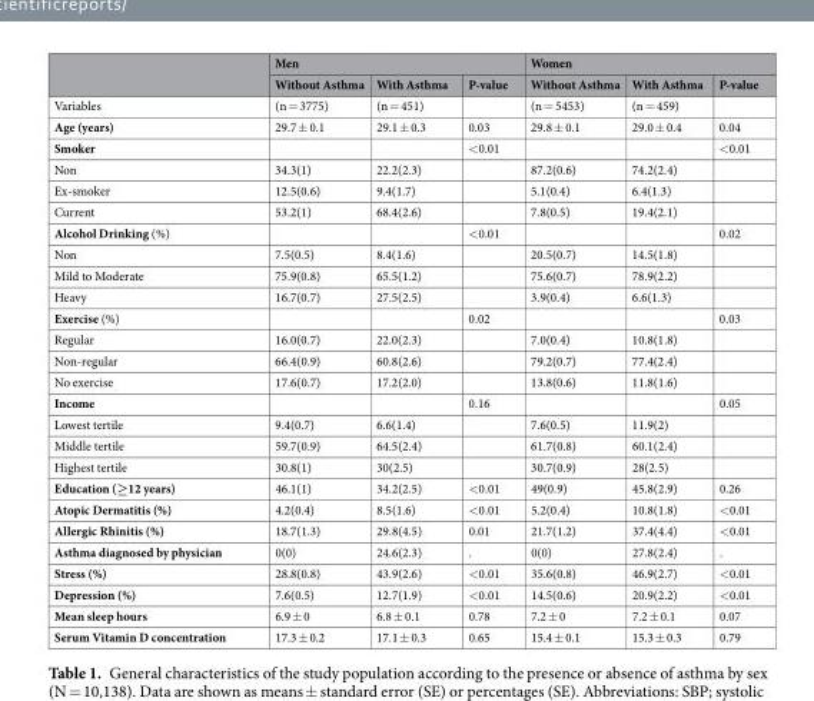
<table><thead><tr><td rowspan="2"></td><td colspan="3">Men</td><td colspan="3">Women</td></tr><tr><td>Without Asthma</td><td>With Asthma</td><td>P-value</td><td>Without Asthma</td><td>With Asthma</td><td>P-value</td></tr></thead><tbody><tr><td>Variables</td><td>(n = 3775)</td><td>(n = 451)</td><td></td><td>(n = 5453)</td><td>(n = 459)</td><td></td></tr><tr><td>Age (years)</td><td>29.7 ± 0.1</td><td>29.1 ± 0.3</td><td>0.03</td><td>29.8 ± 0.1</td><td>29.0 ± 0.4</td><td>0.04</td></tr><tr><td>Smoker</td><td></td><td></td><td>&lt;0.01</td><td></td><td></td><td>&lt;0.01</td></tr><tr><td>Non</td><td>34.3(1)</td><td>22.2(2.3)</td><td></td><td>87.2(0.6)</td><td>74.2(2.4)</td><td></td></tr><tr><td>Ex-smoker</td><td>12.5(0.6)</td><td>9.4(1.7)</td><td></td><td>5.1(0.4)</td><td>6.4(1.3)</td><td></td></tr><tr><td>Current</td><td>53.2(1)</td><td>68.4(2.6)</td><td></td><td>7.8(0.5)</td><td>19.4(2.1)</td><td></td></tr><tr><td>Alcohol Drinking (%)</td><td></td><td></td><td>&lt;0.01</td><td></td><td></td><td>0.02</td></tr><tr><td>Non</td><td>7.5(0.5)</td><td>8.4(1.6)</td><td></td><td>20.5(0.7)</td><td>14.5(1.8)</td><td></td></tr><tr><td>Mild to Moderate</td><td>75.9(0.8)</td><td>65.5(1.2)</td><td></td><td>75.6(0.7)</td><td>78.9(2.2)</td><td></td></tr><tr><td>Heavy</td><td>16.7(0.7)</td><td>27.5(2.5)</td><td></td><td>3.9(0.4)</td><td>6.6(1.3)</td><td></td></tr><tr><td>Exercise (%)</td><td></td><td></td><td>0.02</td><td></td><td></td><td>0.03</td></tr><tr><td>Regular</td><td>16.0(0.7)</td><td>22.0(2.3)</td><td></td><td>7.0(0.4)</td><td>10.8(1.8)</td><td></td></tr><tr><td>Non-regular</td><td>66.4(0.9)</td><td>60.8(2.6)</td><td></td><td>79.2(0.7)</td><td>77.4(2.4)</td><td></td></tr><tr><td>No exercise</td><td>17.6(0.7)</td><td>17.2(2.0)</td><td></td><td>13.8(0.6)</td><td>11.8(1.6)</td><td></td></tr><tr><td>Income</td><td></td><td></td><td>0.16</td><td></td><td></td><td>0.05</td></tr><tr><td>Lowest tertile</td><td>9.4(0.7)</td><td>6.6(1.4)</td><td></td><td>7.6(0.5)</td><td>11.9(2)</td><td></td></tr><tr><td>Middle tertile</td><td>59.7(0.9)</td><td>64.5(2.4)</td><td></td><td>61.7(0.8)</td><td>60.1(2.4)</td><td></td></tr><tr><td>Highest tertile</td><td>30.8(1)</td><td>30(2.5)</td><td></td><td>30.7(0.9)</td><td>28(2.5)</td><td></td></tr><tr><td>Education (≥12 years)</td><td>46.1(1)</td><td>34.2(2.5)</td><td>&lt;0.01</td><td>49(0.9)</td><td>45.8(2.9)</td><td>0.26</td></tr><tr><td>Atopic Dermatitis (%)</td><td>4.2(0.4)</td><td>8.5(1.6)</td><td>&lt;0.01</td><td>5.2(0.4)</td><td>10.8(1.8)</td><td>&lt;0.01</td></tr><tr><td>Allergic Rhinitis (%)</td><td>18.7(1.3)</td><td>29.8(4.5)</td><td>0.01</td><td>21.7(1.2)</td><td>37.4(4.4)</td><td>&lt;0.01</td></tr><tr><td>Asthma diagnosed by physician</td><td>0(0)</td><td>24.6(2.3)</td><td>.</td><td>0(0)</td><td>27.8(2.4)</td><td>.</td></tr><tr><td>Stress (%)</td><td>28.8(0.8)</td><td>43.9(2.6)</td><td>&lt;0.01</td><td>35.6(0.8)</td><td>46.9(2.7)</td><td>&lt;0.01</td></tr><tr><td>Depression (%)</td><td>7.6(0.5)</td><td>12.7(1.9)</td><td>&lt;0.01</td><td>14.5(0.6)</td><td>20.9(2.2)</td><td>&lt;0.01</td></tr><tr><td>Mean sleep hours</td><td>6.9 ± 0</td><td>6.8 ± 0.1</td><td>0.78</td><td>7.2 ± 0</td><td>7.2 ± 0.1</td><td>0.07</td></tr><tr><td>Serum Vitamin D concentration</td><td>17.3 ± 0.2</td><td>17.1 ± 0.3</td><td>0.65</td><td>15.4 ± 0.1</td><td>15.3 ± 0.3</td><td>0.79</td></tr></tbody></table>